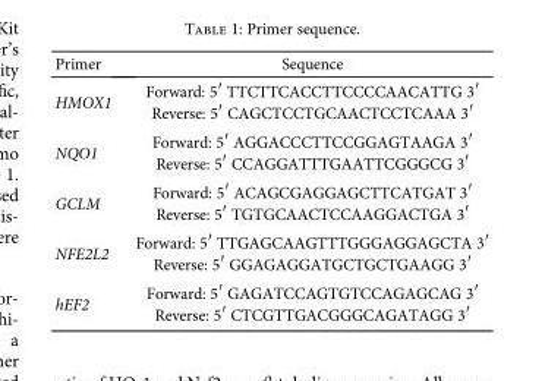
<table><thead><tr><td>Primer</td><td>Sequence</td></tr></thead><tbody><tr><td>HMOX1</td><td>Forward: 5′ TTCTTCACCTTCCCCAACATTG 3′ Reverse: 5′ CAGCTCCTGCAACTCCTCAAA 3′</td></tr><tr><td>NQO1</td><td>Forward: 5′ AGGACCCTTCCGGAGTAAGA 3′ Reverse: 5′ CCAGGATTTGAATTCGGGCG 3′</td></tr><tr><td>GCLM</td><td>Forward: 5′ ACAGCGAGGAGCTTCATGAT 3′ Reverse: 5′ TGTGCAACTCCAAGGACTGA 3′</td></tr><tr><td>NFE2L2</td><td>Forward: 5′ TTGAGCAAGTTTGGGAGGAGCTA 3′ Reverse: 5′ GGAGAGGATGCTGCTGAAGG 3′</td></tr><tr><td>hEF2</td><td>Forward: 5′ GAGATCCAGTGTCCAGAGCAG 3′ Reverse: 5′ CTCGTTGACGGGCAGATAGG 3′</td></tr></tbody></table>